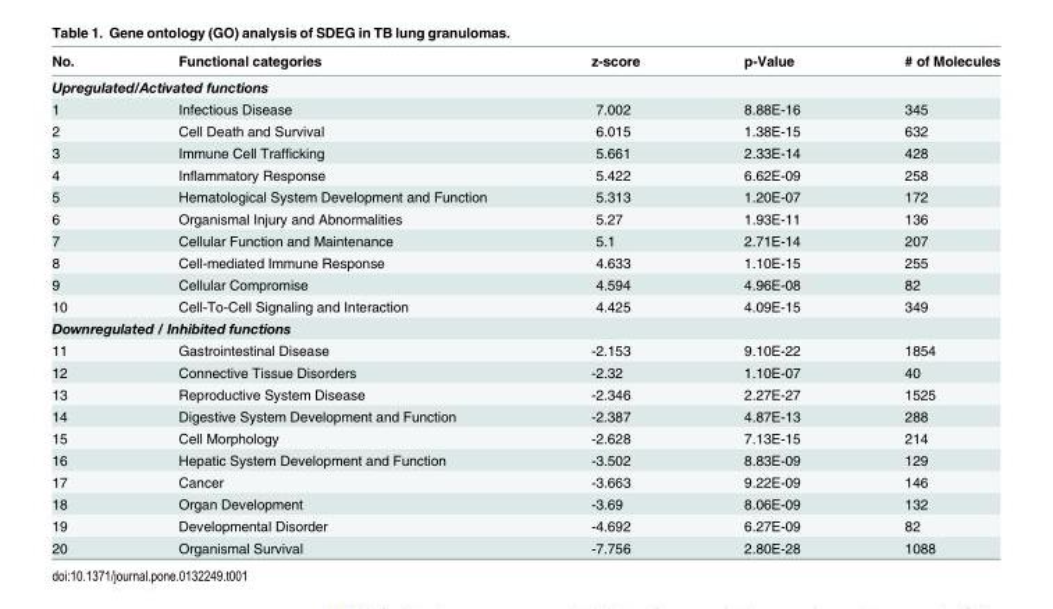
<table><thead><tr><td>No.</td><td>Functional categories</td><td>z-score</td><td>p-Value</td><td># of Molecules</td></tr></thead><tbody><tr><td colspan="5">Upregulated/Activated functions</td></tr><tr><td>1</td><td>Infectious Disease</td><td>7.002</td><td>8.88E-16</td><td>345</td></tr><tr><td>2</td><td>Cell Death and Survival</td><td>6.015</td><td>1.38E-15</td><td>632</td></tr><tr><td>3</td><td>Immune Cell Trafficking</td><td>5.661</td><td>2.33E-14</td><td>428</td></tr><tr><td>4</td><td>Inflammatory Response</td><td>5.422</td><td>6.62E-09</td><td>258</td></tr><tr><td>5</td><td>Hematological System Development and Function</td><td>5.313</td><td>1.20E-07</td><td>172</td></tr><tr><td>6</td><td>Organismal Injury and Abnormalities</td><td>5.27</td><td>1.93E-11</td><td>136</td></tr><tr><td>7</td><td>Cellular Function and Maintenance</td><td>5.1</td><td>2.71E-14</td><td>207</td></tr><tr><td>8</td><td>Cell-mediated Immune Response</td><td>4.633</td><td>1.10E-15</td><td>255</td></tr><tr><td>9</td><td>Cellular Compromise</td><td>4.594</td><td>4.96E-08</td><td>82</td></tr><tr><td>10</td><td>Cell-To-Cell Signaling and Interaction</td><td>4.425</td><td>4.09E-15</td><td>349</td></tr><tr><td colspan="5">Downregulated / Inhibited functions</td></tr><tr><td>11</td><td>Gastrointestinal Disease</td><td>-2.153</td><td>9.10E-22</td><td>1854</td></tr><tr><td>12</td><td>Connective Tissue Disorders</td><td>-2.32</td><td>1.10E-07</td><td>40</td></tr><tr><td>13</td><td>Reproductive System Disease</td><td>-2.346</td><td>2.27E-27</td><td>1525</td></tr><tr><td>14</td><td>Digestive System Development and Function</td><td>-2.387</td><td>4.87E-13</td><td>288</td></tr><tr><td>15</td><td>Cell Morphology</td><td>-2.628</td><td>7.13E-15</td><td>214</td></tr><tr><td>16</td><td>Hepatic System Development and Function</td><td>-3.502</td><td>8.83E-09</td><td>129</td></tr><tr><td>17</td><td>Cancer</td><td>-3.663</td><td>9.22E-09</td><td>146</td></tr><tr><td>18</td><td>Organ Development</td><td>-3.69</td><td>8.06E-09</td><td>132</td></tr><tr><td>19</td><td>Developmental Disorder</td><td>-4.692</td><td>6.27E-09</td><td>82</td></tr><tr><td>20</td><td>Organismal Survival</td><td>-7.756</td><td>2.80E-28</td><td>1088</td></tr></tbody></table>